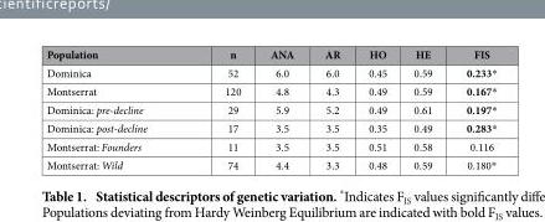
<table><thead><tr><td>Population</td><td>n</td><td>ANA</td><td>AR</td><td>HO</td><td>HE</td><td>FIS</td></tr></thead><tbody><tr><td>Dominica</td><td>52</td><td>6.0</td><td>6.0</td><td>0.45</td><td>0.59</td><td>0.233*</td></tr><tr><td>Montserrat</td><td>120</td><td>4.8</td><td>4.3</td><td>0.49</td><td>0.59</td><td>0.167*</td></tr><tr><td>Dominica: pre-decline</td><td>29</td><td>5.9</td><td>5.2</td><td>0.49</td><td>0.61</td><td>0.197*</td></tr><tr><td>Dominica: post-decline</td><td>17</td><td>3.5</td><td>3.5</td><td>0.35</td><td>0.49</td><td>0.283*</td></tr><tr><td>Montserrat: Founders</td><td>11</td><td>3.5</td><td>3.5</td><td>0.51</td><td>0.58</td><td>0.116</td></tr><tr><td>Montserrat: Wild</td><td>74</td><td>4.4</td><td>3.3</td><td>0.48</td><td>0.59</td><td>0.180*</td></tr></tbody></table>